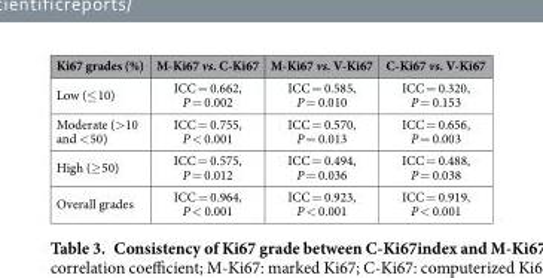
<table><thead><tr><td>Ki67 grades (%)</td><td>M-Ki67 vs. C-Ki67</td><td>M-Ki67 vs. V-Ki67</td><td>C-Ki67 vs. V-Ki67</td></tr></thead><tbody><tr><td>Low (≤ 10)</td><td>ICC = 0.662, P = 0.002</td><td>ICC = 0.585, P = 0.010</td><td>ICC = 0.320, P = 0.153</td></tr><tr><td>Moderate (&gt;10 and &lt; 50)</td><td>ICC = 0.755, P &lt; 0.001</td><td>ICC = 0.570, P = 0.013</td><td>ICC = 0.656, P = 0.003</td></tr><tr><td>High (≥ 50)</td><td>ICC = 0.575, P = 0.012</td><td>ICC = 0.494, P = 0.036</td><td>ICC = 0.488, P = 0.038</td></tr><tr><td>Overall grades</td><td>ICC = 0.964, P &lt; 0.001</td><td>ICC = 0.923, P &lt; 0.001</td><td>ICC = 0.919, P &lt; 0.001</td></tr></tbody></table>